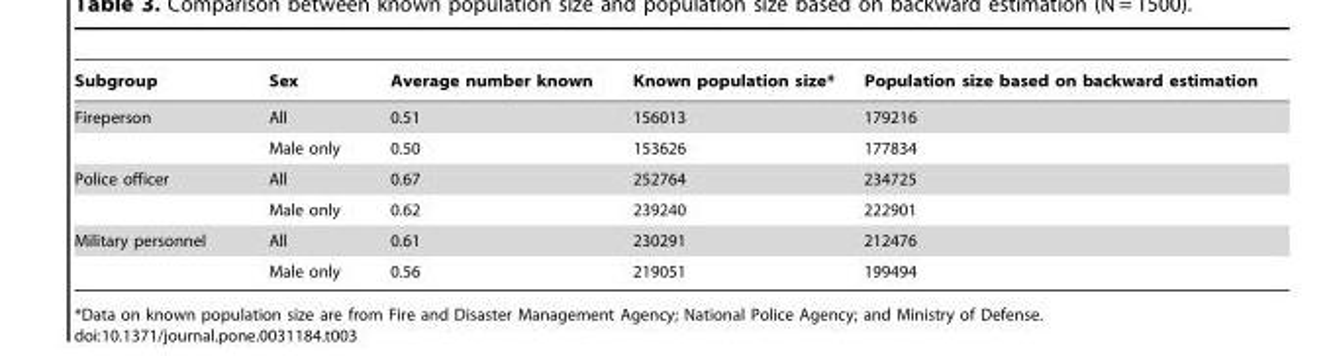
<table><thead><tr><td>Subgroup</td><td>Sex</td><td>Average number known</td><td>Known population size*</td><td>Population size based on backward estimation</td></tr></thead><tbody><tr><td rowspan="2">Fireperson</td><td>All</td><td>0.51</td><td>156013</td><td>179216</td></tr><tr><td>Male only</td><td>0.50</td><td>153626</td><td>177834</td></tr><tr><td rowspan="2">Police officer</td><td>All</td><td>0.67</td><td>252764</td><td>234725</td></tr><tr><td>Male only</td><td>0.62</td><td>239240</td><td>222901</td></tr><tr><td rowspan="2">Military personnel</td><td>All</td><td>0.61</td><td>230291</td><td>212476</td></tr><tr><td>Male only</td><td>0.56</td><td>219051</td><td>199494</td></tr></tbody></table>